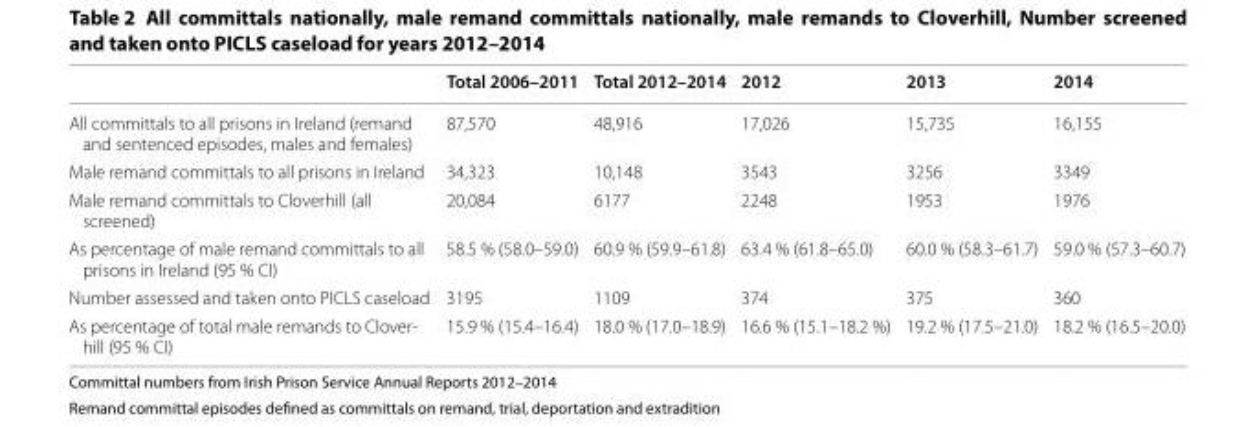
<table><thead><tr><td></td><td>Total 2006–2011</td><td>Total 2012–2014</td><td>2012</td><td>2013</td><td>2014</td></tr></thead><tbody><tr><td>All committals to all prisons in Ireland (remand and sentenced episodes, males and females)</td><td>87,570</td><td>48,916</td><td>17,026</td><td>15,735</td><td>16,155</td></tr><tr><td>Male remand committals to all prisons in Ireland</td><td>34,323</td><td>10,148</td><td>3543</td><td>3256</td><td>3349</td></tr><tr><td>Male remand committals to Cloverhill (all screened)</td><td>20,084</td><td>6177</td><td>2248</td><td>1953</td><td>1976</td></tr><tr><td>As percentage of male remand committals to all prisons in Ireland (95 % CI)</td><td>58.5 % (58.0–59.0)</td><td>60.9 % (59.9–61.8)</td><td>63.4 % (61.8–65.0)</td><td>60.0 % (58.3–61.7)</td><td>59.0 % (57.3–60.7)</td></tr><tr><td>Number assessed and taken onto PICLS caseload</td><td>3195</td><td>1109</td><td>374</td><td>375</td><td>360</td></tr><tr><td>As percentage of total male remands to Clover- hill (95 % CI)</td><td>15.9 % (15.4–16.4)</td><td>18.0 % (17.0–18.9)</td><td>16.6 % (15.1–18.2 %)</td><td>19.2 % (17.5–21.0)</td><td>18.2 % (16.5–20.0)</td></tr></tbody></table>